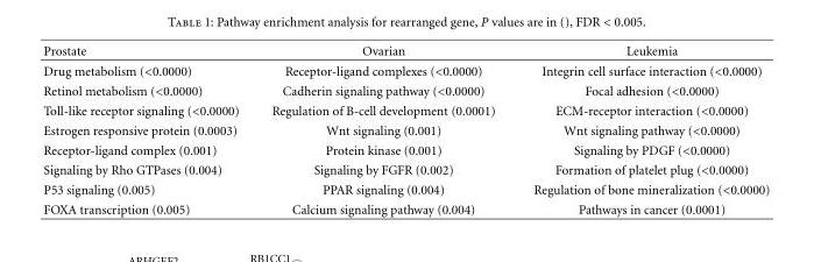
<table><thead><tr><td>Prostate</td><td>Ovarian</td><td>Leukemia</td></tr></thead><tbody><tr><td>Drug metabolism (&lt;0.0000)</td><td>Receptor-ligand complexes (&lt;0.0000)</td><td>Integrin cell surface interaction (&lt;0.0000)</td></tr><tr><td>Retinol metabolism (&lt;0.0000)</td><td>Cadherin signaling pathway (&lt;0.0000)</td><td>Focal adhesion (&lt;0.0000)</td></tr><tr><td>Toll-like receptor signaling (&lt;0.0000)</td><td>Regulation of B-cell development (0.0001)</td><td>ECM-receptor interaction (&lt;0.0000)</td></tr><tr><td>Estrogen responsive protein (0.0003)</td><td>Wnt signaling (0.001)</td><td>Wnt signaling pathway (&lt;0.0000)</td></tr><tr><td>Receptor-ligand complex (0.001)</td><td>Protein kinase (0.001)</td><td>Signaling by PDGF (&lt;0.0000)</td></tr><tr><td>Signaling by Rho GTPases (0.004)</td><td>Signaling by FGFR (0.002)</td><td>Formation of platelet plug (&lt;0.0000)</td></tr><tr><td>P53 signaling (0.005)</td><td>PPAR signaling (0.004)</td><td>Regulation of bone mineralization (&lt;0.0000)</td></tr><tr><td>FOXA transcription (0.005)</td><td>Calcium signaling pathway (0.004)</td><td>Pathways in cancer (0.0001)</td></tr></tbody></table>